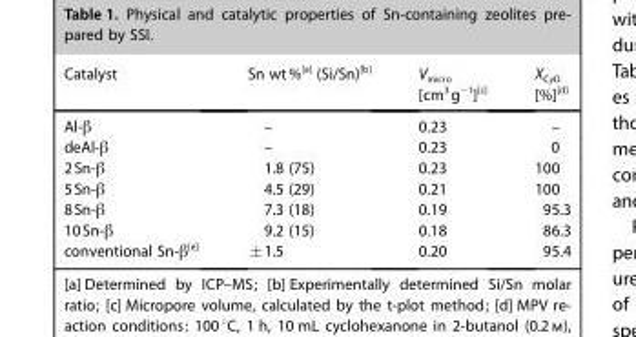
<table><thead><tr><td>Catalyst</td><td>Sn wt%<sup>[a]</sup> (Si/Sn)<sup>[b]</sup></td><td>V<sub>micro</sub> [cm<sup>3</sup>g<sup>−1</sup>]<sup>[c]</sup></td><td>X<sub>CyO</sub> [%]<sup>[d]</sup></td></tr></thead><tbody><tr><td>Al-β</td><td>–</td><td>0.23</td><td>–</td></tr><tr><td>deAl-β</td><td>–</td><td>0.23</td><td>0</td></tr><tr><td>2Sn-β</td><td>1.8 (75)</td><td>0.23</td><td>100</td></tr><tr><td>5Sn-β</td><td>4.5 (29)</td><td>0.21</td><td>100</td></tr><tr><td>8Sn-β</td><td>7.3 (18)</td><td>0.19</td><td>95.3</td></tr><tr><td>10Sn-β</td><td>9.2 (15)</td><td>0.18</td><td>86.3</td></tr><tr><td>conventional Sn-β<sup>[e]</sup></td><td>±1.5</td><td>0.20</td><td>95.4</td></tr></tbody></table>